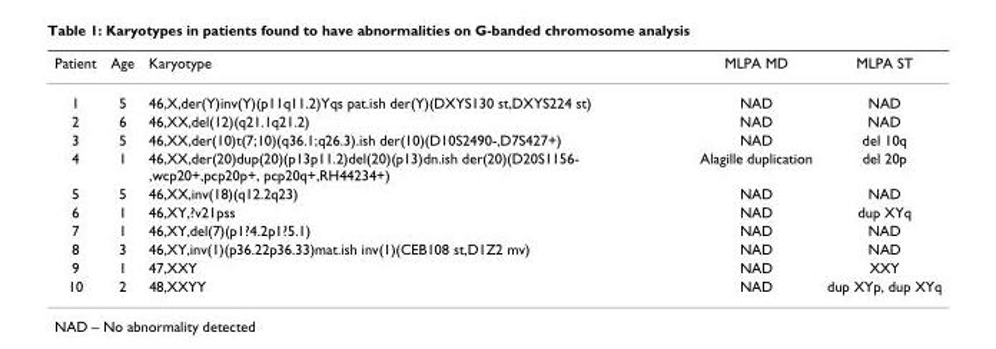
<table><thead><tr><td>Patient</td><td>Age</td><td>Karyotype</td><td>MLPA MD</td><td>MLPA ST</td></tr></thead><tbody><tr><td>1</td><td>5</td><td>46,X,der(Y)inv(Y)(p11q11.2)Yqs pat.ish der(Y)(DXYS130 st,DXYS224 st)</td><td>NAD</td><td>NAD</td></tr><tr><td>2</td><td>6</td><td>46,XX,del(12)(q21.1q21.2)</td><td>NAD</td><td>NAD</td></tr><tr><td>3</td><td>5</td><td>46,XX,der(10)t(7;10)(q36.1;q26.3).ish der(10)(D10S2490-,D7S427+)</td><td>NAD</td><td>del 10q</td></tr><tr><td>4</td><td>1</td><td>46,XX,der(20)dup(20)(p13p11.2)del(20)(p13)dn.ish der(20)(D20S1156- ,wcp20+,pcp20p+, pcp20q+,RH44234+)</td><td>Alagille duplication</td><td>del 20p</td></tr><tr><td>5</td><td>5</td><td>46,XX,inv(18)(q12.2q23)</td><td>NAD</td><td>NAD</td></tr><tr><td>6</td><td>1</td><td>46,XY,?v21pss</td><td>NAD</td><td>dup XYq</td></tr><tr><td>7</td><td>1</td><td>46,XY,del(7)(p1?4.2p1?5.1)</td><td>NAD</td><td>NAD</td></tr><tr><td>8</td><td>3</td><td>46,XY,inv(1)(p36.22p36.33)mat.ish inv(1)(CEB108 st,D1Z2 mv)</td><td>NAD</td><td>NAD</td></tr><tr><td>9</td><td>1</td><td>47,XXY</td><td>NAD</td><td>XXY</td></tr><tr><td>10</td><td>2</td><td>48,XXYY</td><td>NAD</td><td>dup XYp, dup XYq</td></tr></tbody></table>